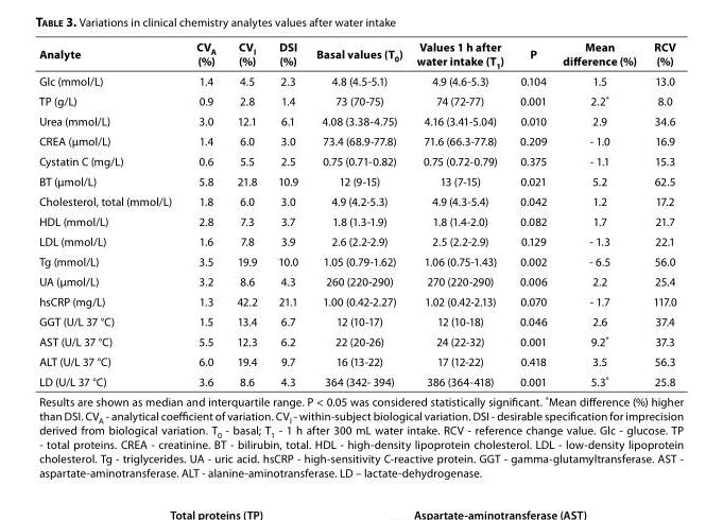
<table><thead><tr><td>Analyte</td><td>CV<sub>A</sub> (%)</td><td>CV<sub>I</sub> (%)</td><td>DSI (%)</td><td>Basal values (T<sub>0</sub>)</td><td>Values 1 h after water intake (T<sub>1</sub>)</td><td>P</td><td>Mean difference (%)</td><td>RCV (%)</td></tr></thead><tbody><tr><td>Glc (mmol/L)</td><td>1.4</td><td>4.5</td><td>2.3</td><td>4.8 (4.5-5.1)</td><td>4.9 (4.6-5.3)</td><td>0.104</td><td>1.5</td><td>13.0</td></tr><tr><td>TP (g/L)</td><td>0.9</td><td>2.8</td><td>1.4</td><td>73 (70-75)</td><td>74 (72-77)</td><td>0.001</td><td>2.2*</td><td>8.0</td></tr><tr><td>Urea (mmol/L)</td><td>3.0</td><td>12.1</td><td>6.1</td><td>4.08 (3.38-4.75)</td><td>4.16 (3.41-5.04)</td><td>0.010</td><td>2.9</td><td>34.6</td></tr><tr><td>CREA (µmol/L)</td><td>1.4</td><td>6.0</td><td>3.0</td><td>73.4 (68.9-77.8)</td><td>71.6 (66.3-77.8)</td><td>0.209</td><td>- 1.0</td><td>16.9</td></tr><tr><td>Cystatin C (mg/L)</td><td>0.6</td><td>5.5</td><td>2.5</td><td>0.75 (0.71-0.82)</td><td>0.75 (0.72-0.79)</td><td>0.375</td><td>- 1.1</td><td>15.3</td></tr><tr><td>BT (µmol/L)</td><td>5.8</td><td>21.8</td><td>10.9</td><td>12 (9-15)</td><td>13 (7-15)</td><td>0.021</td><td>5.2</td><td>62.5</td></tr><tr><td>Cholesterol, total (mmol/L)</td><td>1.8</td><td>6.0</td><td>3.0</td><td>4.9 (4.2-5.3)</td><td>4.9 (4.3-5.4)</td><td>0.042</td><td>1.2</td><td>17.2</td></tr><tr><td>HDL (mmol/L)</td><td>2.8</td><td>7.3</td><td>3.7</td><td>1.8 (1.3-1.9)</td><td>1.8 (1.4-2.0)</td><td>0.082</td><td>1.7</td><td>21.7</td></tr><tr><td>LDL (mmol/L)</td><td>1.6</td><td>7.8</td><td>3.9</td><td>2.6 (2.2-2.9)</td><td>2.5 (2.2-2.9)</td><td>0.129</td><td>- 1.3</td><td>22.1</td></tr><tr><td>Tg (mmol/L)</td><td>3.5</td><td>19.9</td><td>10.0</td><td>1.05 (0.79-1.62)</td><td>1.06 (0.75-1.43)</td><td>0.002</td><td>- 6.5</td><td>56.0</td></tr><tr><td>UA (µmol/L)</td><td>3.2</td><td>8.6</td><td>4.3</td><td>260 (220-290)</td><td>270 (220-290)</td><td>0.006</td><td>2.2</td><td>25.4</td></tr><tr><td>hsCRP (mg/L)</td><td>1.3</td><td>42.2</td><td>21.1</td><td>1.00 (0.42-2.27)</td><td>1.02 (0.42-2.13)</td><td>0.070</td><td>- 1.7</td><td>117.0</td></tr><tr><td>GGT (U/L 37 °C)</td><td>1.5</td><td>13.4</td><td>6.7</td><td>12 (10-17)</td><td>12 (10-18)</td><td>0.046</td><td>2.6</td><td>37.4</td></tr><tr><td>AST (U/L 37 °C)</td><td>5.5</td><td>12.3</td><td>6.2</td><td>22 (20-26)</td><td>24 (22-32)</td><td>0.001</td><td>9.2*</td><td>37.3</td></tr><tr><td>ALT (U/L 37 °C)</td><td>6.0</td><td>19.4</td><td>9.7</td><td>16 (13-22)</td><td>17 (12-22)</td><td>0.418</td><td>3.5</td><td>56.3</td></tr><tr><td>LD (U/L 37 °C)</td><td>3.6</td><td>8.6</td><td>4.3</td><td>364 (342- 394)</td><td>386 (364-418)</td><td>0.001</td><td>5.3*</td><td>25.8</td></tr><tr><td colspan="9">Results are shown as median and interquartile range. P &lt; 0.05 was considered statistically significant. *Mean difference (%) higher than DSI. CV<sub>A</sub> - analytical coefficient of variation. CV<sub>I</sub> - within-subject biological variation. DSI - desirable specification for imprecision derived from biological variation. T<sub>0</sub> - basal; T<sub>1</sub> - 1 h after 300 mL water intake. RCV - reference change value. Glc - glucose. TP - total proteins. CREA - creatinine. BT - bilirubin, total. HDL - high-density lipoprotein cholesterol. LDL - low-density lipoprotein cholesterol. Tg - triglycerides. UA - uric acid. hsCRP - high-sensitivity C-reactive protein. GGT - gamma-glutamyltransferase. AST - aspartate-aminotransferase. ALT - alanine-aminotransferase. LD – lactate-dehydrogenase.</td></tr></tbody></table>